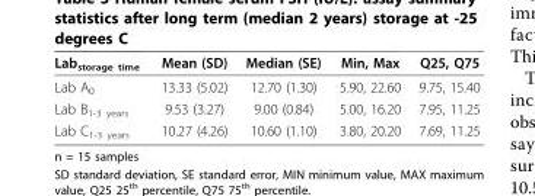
<table><thead><tr><td>Lab<sub>storage time</sub></td><td>Mean (SD)</td><td>Median (SE)</td><td>Min, Max</td><td>Q25, Q75</td></tr></thead><tbody><tr><td>Lab A<sub>0</sub></td><td>13.33 (5.02)</td><td>12.70 (1.30)</td><td>5.90, 22.60</td><td>9.75, 15.40</td></tr><tr><td>Lab B<sub>1-3 years</sub></td><td>9.53 (3.27)</td><td>9.00 (0.84)</td><td>5.00, 16.20</td><td>7.95, 11.25</td></tr><tr><td>Lab C<sub>1-3 years</sub></td><td>10.27 (4.26)</td><td>10.60 (1.10)</td><td>3.80, 20.20</td><td>7.69, 11.25</td></tr></tbody></table>